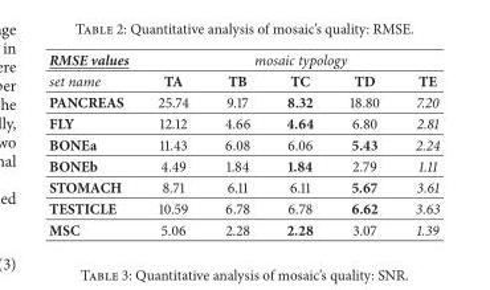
<table><thead><tr><td rowspan="2">RMSE values set name</td><td colspan="5">mosaic typology</td></tr><tr><td>TA</td><td>TB</td><td>TC</td><td>TD</td><td>TE</td></tr></thead><tbody><tr><td>PANCREAS</td><td>25.74</td><td>9.17</td><td>8.32</td><td>18.80</td><td>7.20</td></tr><tr><td>FLY</td><td>12.12</td><td>4.66</td><td>4.64</td><td>6.80</td><td>2.81</td></tr><tr><td>BONEa</td><td>11.43</td><td>6.08</td><td>6.06</td><td>5.43</td><td>2.24</td></tr><tr><td>BONEb</td><td>4.49</td><td>1.84</td><td>1.84</td><td>2.79</td><td>1.11</td></tr><tr><td>STOMACH</td><td>8.71</td><td>6.11</td><td>6.11</td><td>5.67</td><td>3.61</td></tr><tr><td>TESTICLE</td><td>10.59</td><td>6.78</td><td>6.78</td><td>6.62</td><td>3.63</td></tr><tr><td>MSC</td><td>5.06</td><td>2.28</td><td>2.28</td><td>3.07</td><td>1.39</td></tr></tbody></table>